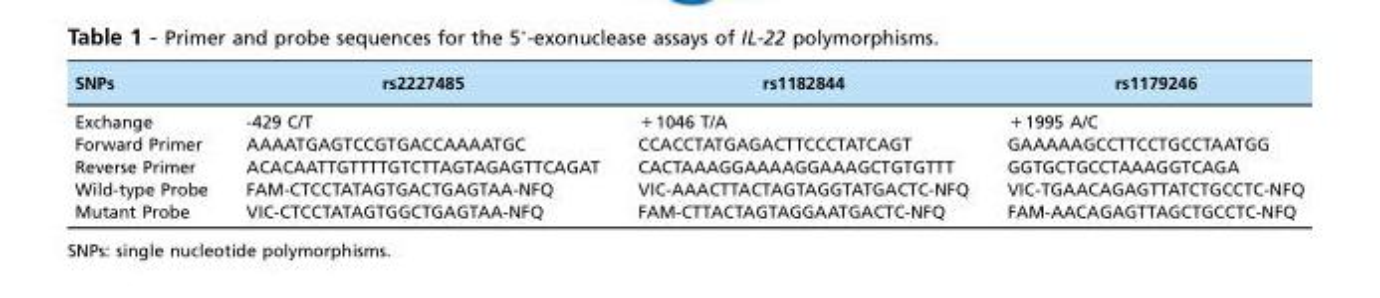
<table><thead><tr><td>SNPs</td><td>rs2227485</td><td>rs1182844</td><td>rs1179246</td></tr></thead><tbody><tr><td>Exchange</td><td>-429 C/T</td><td>+1046 T/A</td><td>+1995 A/C</td></tr><tr><td>Forward Primer</td><td>AAAATGAGTCCGTGACCAAAATGC</td><td>CCACCTATGAGACTTCCCTATCAGT</td><td>GAAAAAGCCTTCCTGCCTAATGG</td></tr><tr><td>Reverse Primer</td><td>ACACAATTGTTTTGTCTTAGTAGAGTTCAGAT</td><td>CACTAAAGGAAAAGGAAAGCTGTGTTT</td><td>GGTGCTGCCTAAAGGTCAGA</td></tr><tr><td>Wild-type Probe</td><td>FAM-CTCCTATAGTGACTGAGTAA-NFQ</td><td>VIC-AAACTTACTAGTAGGTATGACTC-NFQ</td><td>VIC-TGAACAGAGTTATCTGCCTC-NFQ</td></tr><tr><td>Mutant Probe</td><td>VIC-CTCCTATAGTGGCTGAGTAA-NFQ</td><td>FAM-CTTACTAGTAGGAATGACTC-NFQ</td><td>FAM-AACAGAGTTAGCTGCCTC-NFQ</td></tr></tbody></table>